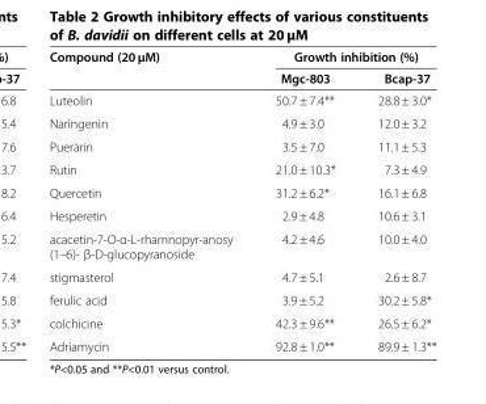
<table><thead><tr><td rowspan="2">Compound (20 μM)</td><td colspan="2">Growth inhibition (%)</td></tr><tr><td>Mgc-803</td><td>Bcap-37</td></tr></thead><tbody><tr><td>Luteolin</td><td>50.7 ± 7.4**</td><td>28.8 ± 3.0*</td></tr><tr><td>Naringenin</td><td>4.9 ± 3.0</td><td>12.0 ± 3.2</td></tr><tr><td>Puerarin</td><td>3.5 ± 7.0</td><td>11.1 ± 5.3</td></tr><tr><td>Rutin</td><td>21.0 ± 10.3*</td><td>7.3 ± 4.9</td></tr><tr><td>Quercetin</td><td>31.2 ± 6.2*</td><td>16.1 ± 6.8</td></tr><tr><td>Hesperetin</td><td>2.9 ± 4.8</td><td>10.6 ± 3.1</td></tr><tr><td>acacetin-7-O-α-L-rhamnopyr-anosy (1–6)- β-D-glucopyranoside</td><td>4.2 ± 4.6</td><td>10.0 ± 4.0</td></tr><tr><td>stigmasterol</td><td>4.7 ± 5.1</td><td>2.6 ± 8.7</td></tr><tr><td>ferulic acid</td><td>3.9 ± 5.2</td><td>30.2 ± 5.8*</td></tr><tr><td>colchicine</td><td>42.3 ± 9.6**</td><td>26.5 ± 6.2*</td></tr><tr><td>Adriamycin</td><td>92.8 ± 1.0**</td><td>89.9 ± 1.3**</td></tr></tbody></table>